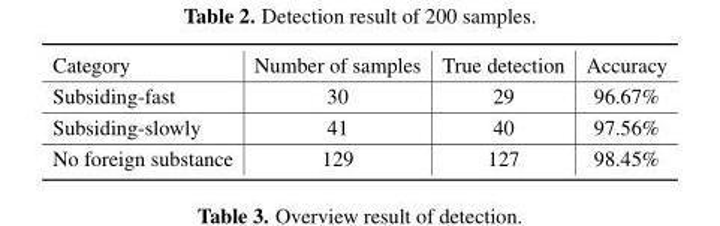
<table><thead><tr><td>Category</td><td>Number of samples</td><td>True detection</td><td>Accuracy</td></tr></thead><tbody><tr><td>Subsiding-fast</td><td>30</td><td>29</td><td>96.67%</td></tr><tr><td>Subsiding-slowly</td><td>41</td><td>40</td><td>97.56%</td></tr><tr><td>No foreign substance</td><td>129</td><td>127</td><td>98.45%</td></tr></tbody></table>